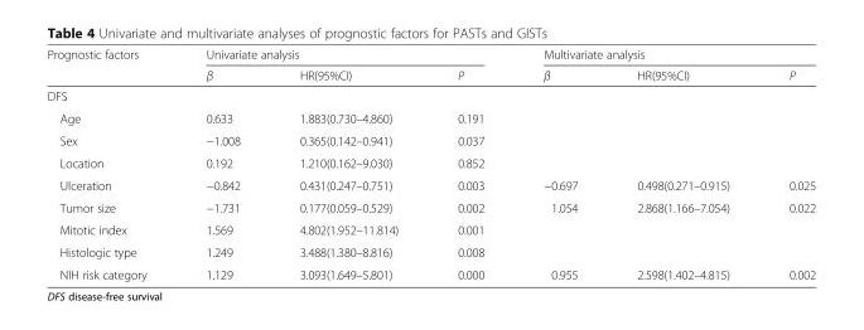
<table><thead><tr><td rowspan="2">Prognostic factors</td><td colspan="3">Univariate analysis</td><td colspan="3">Multivariate analysis</td></tr><tr><td>β</td><td>HR(95%CI)</td><td>P</td><td>β</td><td>HR(95%CI)</td><td>P</td></tr></thead><tbody><tr><td colspan="7">DFS</td></tr><tr><td>Age</td><td>0.633</td><td>1.883(0.730–4.860)</td><td>0.191</td><td></td><td></td><td></td></tr><tr><td>Sex</td><td>−1.008</td><td>0.365(0.142–0.941)</td><td>0.037</td><td></td><td></td><td></td></tr><tr><td>Location</td><td>0.192</td><td>1.210(0.162–9.030)</td><td>0.852</td><td></td><td></td><td></td></tr><tr><td>Ulceration</td><td>−0.842</td><td>0.431(0.247–0.751)</td><td>0.003</td><td>−0.697</td><td>0.498(0.271–0.915)</td><td>0.025</td></tr><tr><td>Tumor size</td><td>−1.731</td><td>0.177(0.059–0.529)</td><td>0.002</td><td>1.054</td><td>2.868(1.166–7.054)</td><td>0.022</td></tr><tr><td>Mitotic index</td><td>1.569</td><td>4.802(1.952–11.814)</td><td>0.001</td><td></td><td></td><td></td></tr><tr><td>Histologic type</td><td>1.249</td><td>3.488(1.380–8.816)</td><td>0.008</td><td></td><td></td><td></td></tr><tr><td>NIH risk category</td><td>1.129</td><td>3.093(1.649–5.801)</td><td>0.000</td><td>0.955</td><td>2.598(1.402–4.815)</td><td>0.002</td></tr></tbody></table>